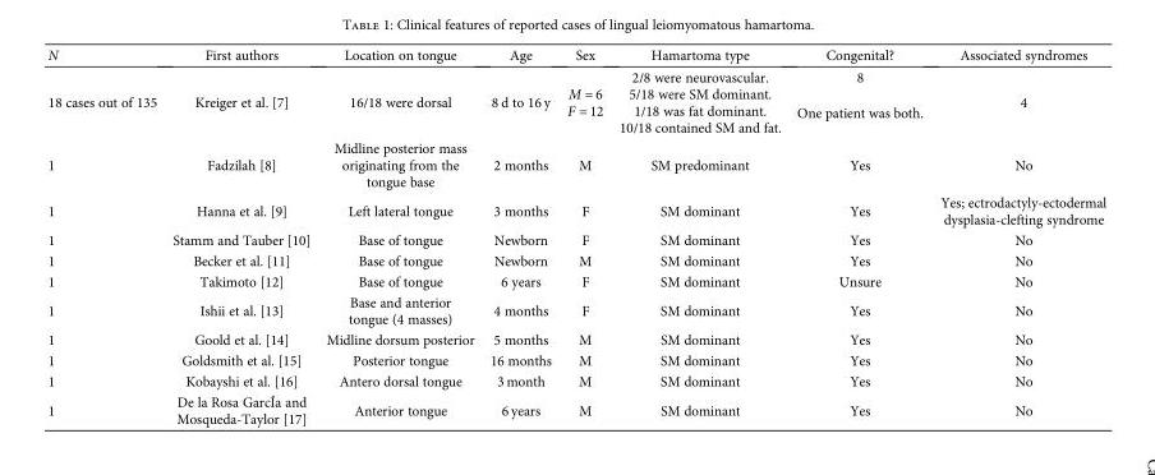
<table><thead><tr><td>N</td><td>First authors</td><td>Location on tongue</td><td>Age</td><td>Sex</td><td>Hamartoma type</td><td>Congenital?</td><td>Associated syndromes</td></tr></thead><tbody><tr><td rowspan="2">18 cases out of 135</td><td rowspan="2">Kreiger et al. [7]</td><td rowspan="2">16/18 were dorsal</td><td rowspan="2">8 d to 16 y</td><td rowspan="2">M = 6 F = 12</td><td rowspan="2">2/8 were neurovascular. 5/18 were SM dominant. 1/18 was fat dominant. 10/18 contained SM and fat.</td><td>8</td><td rowspan="2">4</td></tr><tr><td>One patient was both.</td></tr><tr><td>1</td><td>Fadzilah [8]</td><td>Midline posterior mass originating from the tongue base</td><td>2 months</td><td>M</td><td>SM predominant</td><td>Yes</td><td>No</td></tr><tr><td>1</td><td>Hanna et al. [9]</td><td>Left lateral tongue</td><td>3 months</td><td>F</td><td>SM dominant</td><td>Yes</td><td>Yes; ectrodactyly-ectodermal dysplasia-clefting syndrome</td></tr><tr><td>1</td><td>Stamm and Tauber [10]</td><td>Base of tongue</td><td>Newborn</td><td>F</td><td>SM dominant</td><td>Yes</td><td>No</td></tr><tr><td>1</td><td>Becker et al. [11]</td><td>Base of tongue</td><td>Newborn</td><td>M</td><td>SM dominant</td><td>Yes</td><td>No</td></tr><tr><td>1</td><td>Takimoto [12]</td><td>Base of tongue</td><td>6 years</td><td>F</td><td>SM dominant</td><td>Unsure</td><td>No</td></tr><tr><td>1</td><td>Ishii et al. [13]</td><td>Base and anterior tongue (4 masses)</td><td>4 months</td><td>F</td><td>SM dominant</td><td>Yes</td><td>No</td></tr><tr><td>1</td><td>Goold et al. [14]</td><td>Midline dorsum posterior</td><td>5 months</td><td>M</td><td>SM dominant</td><td>Yes</td><td>No</td></tr><tr><td>1</td><td>Goldsmith et al. [15]</td><td>Posterior tongue</td><td>16 months</td><td>M</td><td>SM dominant</td><td>Yes</td><td>No</td></tr><tr><td>1</td><td>Kobayshi et al. [16]</td><td>Antero dorsal tongue</td><td>3 month</td><td>M</td><td>SM dominant</td><td>Yes</td><td>No</td></tr><tr><td>1</td><td>De la Rosa GarcÍa and Mosqueda-Taylor [17]</td><td>Anterior tongue</td><td>6 years</td><td>M</td><td>SM dominant</td><td>Yes</td><td>No</td></tr></tbody></table>